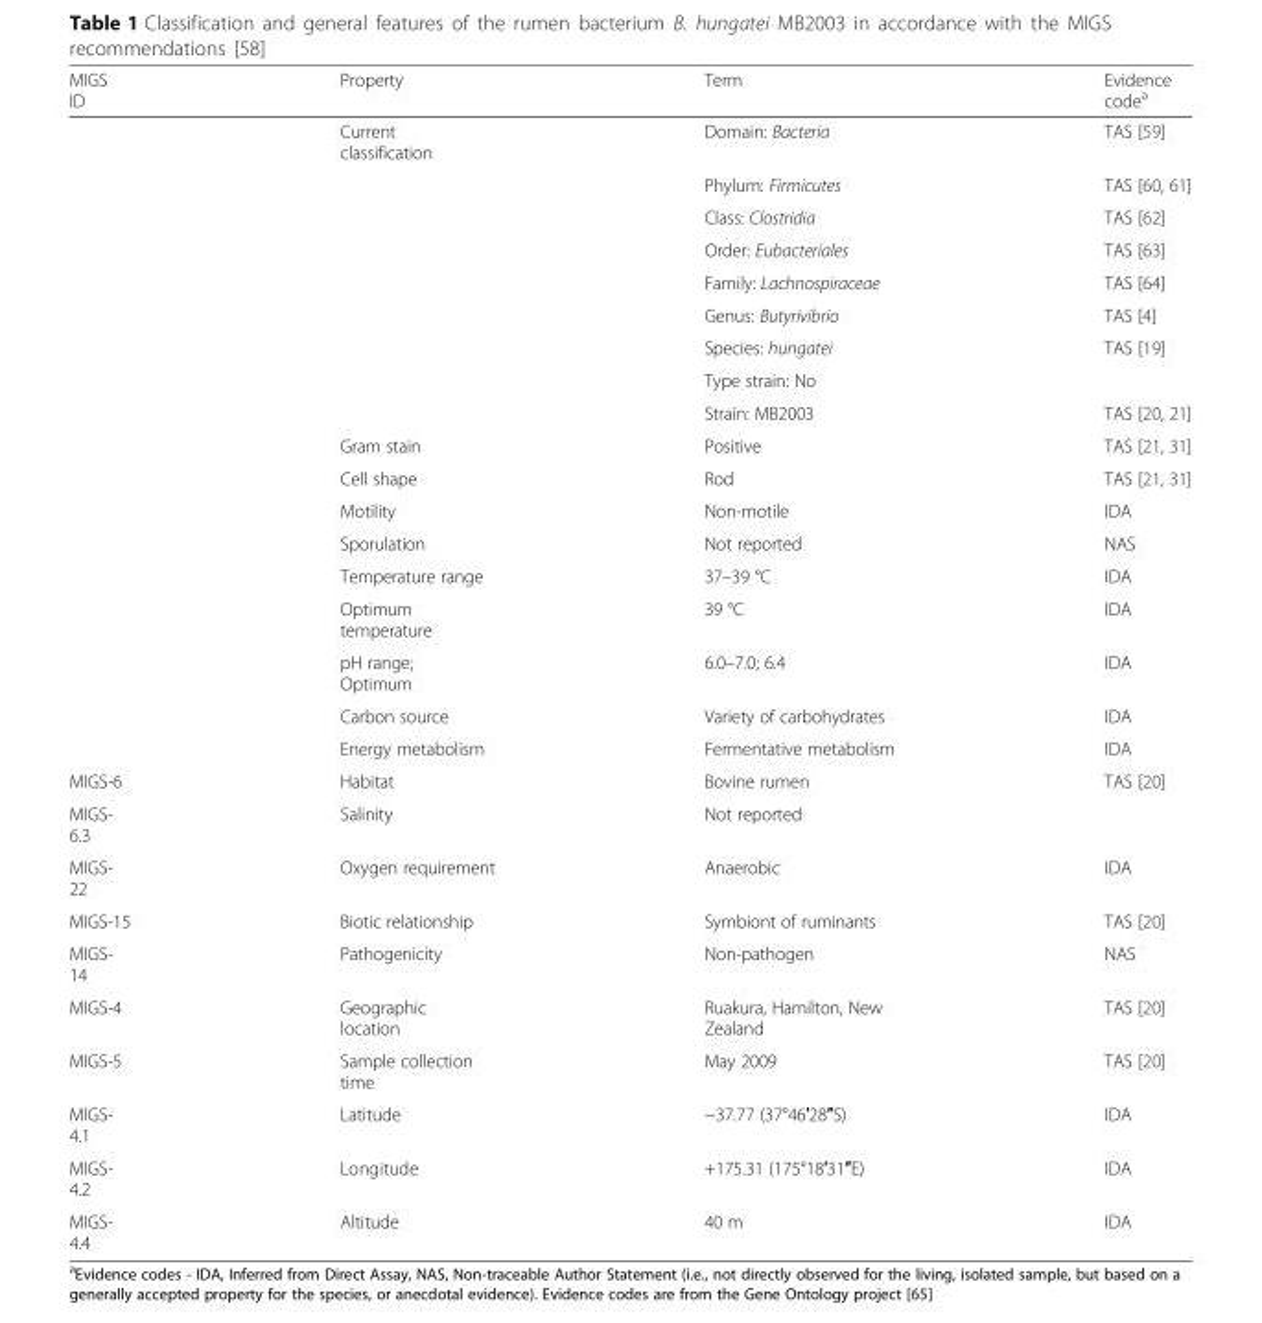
<table><thead><tr><td>MIGS ID</td><td>Property</td><td>Term</td><td>Evidence code<sup>a</sup></td></tr></thead><tbody><tr><td></td><td>Current classification</td><td>Domain: Bacteria</td><td>TAS [59]</td></tr><tr><td></td><td></td><td>Phylum: Firmicutes</td><td>TAS [60, 61]</td></tr><tr><td></td><td></td><td>Class: Clostridia</td><td>TAS [62]</td></tr><tr><td></td><td></td><td>Order: Eubacteriales</td><td>TAS [63]</td></tr><tr><td></td><td></td><td>Family: Lachnospiraceae</td><td>TAS [64]</td></tr><tr><td></td><td></td><td>Genus: Butyrivibrio</td><td>TAS [4]</td></tr><tr><td></td><td></td><td>Species: hungatei</td><td>TAS [19]</td></tr><tr><td></td><td></td><td>Type strain: No</td><td></td></tr><tr><td></td><td></td><td>Strain: MB2003</td><td>TAS [20, 21]</td></tr><tr><td></td><td>Gram stain</td><td>Positive</td><td>TAS [21, 31]</td></tr><tr><td></td><td>Cell shape</td><td>Rod</td><td>TAS [21, 31]</td></tr><tr><td></td><td>Motility</td><td>Non-motile</td><td>IDA</td></tr><tr><td></td><td>Sporulation</td><td>Not reported</td><td>NAS</td></tr><tr><td></td><td>Temperature range</td><td>37–39 °C</td><td>IDA</td></tr><tr><td></td><td>Optimum temperature</td><td>39 °C</td><td>IDA</td></tr><tr><td></td><td>pH range; Optimum</td><td>6.0–7.0; 6.4</td><td>IDA</td></tr><tr><td></td><td>Carbon source</td><td>Variety of carbohydrates</td><td>IDA</td></tr><tr><td></td><td>Energy metabolism</td><td>Fermentative metabolism</td><td>IDA</td></tr><tr><td>MIGS-6</td><td>Habitat</td><td>Bovine rumen</td><td>TAS [20]</td></tr><tr><td>MIGS- 6.3</td><td>Salinity</td><td>Not reported</td><td></td></tr><tr><td>MIGS- 22</td><td>Oxygen requirement</td><td>Anaerobic</td><td>IDA</td></tr><tr><td>MIGS-15</td><td>Biotic relationship</td><td>Symbiont of ruminants</td><td>TAS [20]</td></tr><tr><td>MIGS- 14</td><td>Pathogenicity</td><td>Non-pathogen</td><td>NAS</td></tr><tr><td>MIGS-4</td><td>Geographic location</td><td>Ruakura, Hamilton, New Zealand</td><td>TAS [20]</td></tr><tr><td>MIGS-5</td><td>Sample collection time</td><td>May 2009</td><td>TAS [20]</td></tr><tr><td>MIGS- 4.1</td><td>Latitude</td><td>−37.77 (37°46′28″S)</td><td>IDA</td></tr><tr><td>MIGS- 4.2</td><td>Longitude</td><td>+175.31 (175°18′31″E)</td><td>IDA</td></tr><tr><td>MIGS- 4.4</td><td>Altitude</td><td>40 m</td><td>IDA</td></tr></tbody></table>